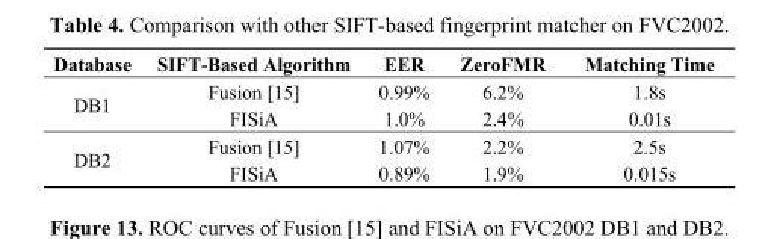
<table><thead><tr><td>Database</td><td>SIFT-Based Algorithm</td><td>EER</td><td>ZeroFMR</td><td>Matching Time</td></tr></thead><tbody><tr><td rowspan="2">DB1</td><td>Fusion [15]</td><td>0.99%</td><td>6.2%</td><td>1.8s</td></tr><tr><td>FISiA</td><td>1.0%</td><td>2.4%</td><td>0.01s</td></tr><tr><td rowspan="2">DB2</td><td>Fusion [15]</td><td>1.07%</td><td>2.2%</td><td>2.5s</td></tr><tr><td>FISiA</td><td>0.89%</td><td>1.9%</td><td>0.015s</td></tr></tbody></table>